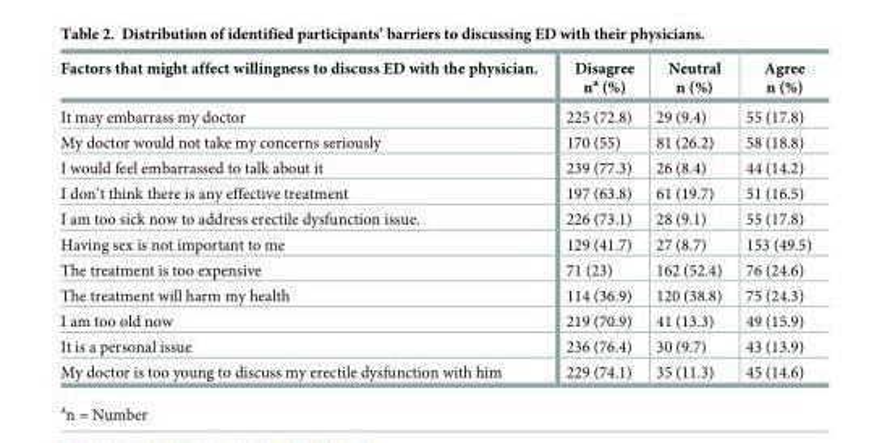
<table><thead><tr><td>Factors that might affect willingness to discuss ED with the physician.</td><td>Disagree n<sup>a</sup> (%)</td><td>Neutral n (%)</td><td>Agree n (%)</td></tr></thead><tbody><tr><td>It may embarrass my doctor</td><td>225 (72.8)</td><td>29 (9.4)</td><td>55 (17.8)</td></tr><tr><td>My doctor would not take my concerns seriously</td><td>170 (55)</td><td>81 (26.2)</td><td>58 (18.8)</td></tr><tr><td>I would feel embarrassed to talk about it</td><td>239 (77.3)</td><td>26 (8.4)</td><td>44 (14.2)</td></tr><tr><td>I don’t think there is any effective treatment</td><td>197 (63.8)</td><td>61 (19.7)</td><td>51 (16.5)</td></tr><tr><td>I am too sick now to address erectile dysfunction issue.</td><td>226 (73.1)</td><td>28 (9.1)</td><td>55 (17.8)</td></tr><tr><td>Having sex is not important to me</td><td>129 (41.7)</td><td>27 (8.7)</td><td>153 (49.5)</td></tr><tr><td>The treatment is too expensive</td><td>71 (23)</td><td>162 (52.4)</td><td>76 (24.6)</td></tr><tr><td>The treatment will harm my health</td><td>114 (36.9)</td><td>120 (38.8)</td><td>75 (24.3)</td></tr><tr><td>I am too old now</td><td>219 (70.9)</td><td>41 (13.3)</td><td>49 (15.9)</td></tr><tr><td>It is a personal issue</td><td>236 (76.4)</td><td>30 (9.7)</td><td>43 (13.9)</td></tr><tr><td>My doctor is too young to discuss my erectile dysfunction with him</td><td>229 (74.1)</td><td>35 (11.3)</td><td>45 (14.6)</td></tr></tbody></table>